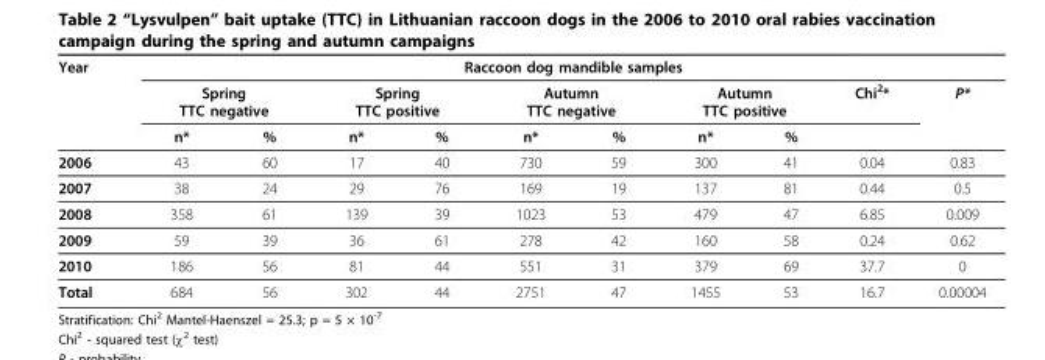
<table><thead><tr><td rowspan="3">Year</td><td colspan="10">Raccoon dog mandible samples</td></tr><tr><td colspan="2">Spring TTC negative</td><td colspan="2">Spring TTC positive</td><td colspan="2">Autumn TTC negative</td><td colspan="2">Autumn TTC positive</td><td rowspan="2">Chi<sup>2</sup>*</td><td rowspan="2">P*</td></tr><tr><td>n*</td><td>%</td><td>n*</td><td>%</td><td>n*</td><td>%</td><td>n*</td><td>%</td></tr></thead><tbody><tr><td>2006</td><td>43</td><td>60</td><td>17</td><td>40</td><td>730</td><td>59</td><td>300</td><td>41</td><td>0.04</td><td>0.83</td></tr><tr><td>2007</td><td>38</td><td>24</td><td>29</td><td>76</td><td>169</td><td>19</td><td>137</td><td>81</td><td>0.44</td><td>0.5</td></tr><tr><td>2008</td><td>358</td><td>61</td><td>139</td><td>39</td><td>1023</td><td>53</td><td>479</td><td>47</td><td>6.85</td><td>0.009</td></tr><tr><td>2009</td><td>59</td><td>39</td><td>36</td><td>61</td><td>278</td><td>42</td><td>160</td><td>58</td><td>0.24</td><td>0.62</td></tr><tr><td>2010</td><td>186</td><td>56</td><td>81</td><td>44</td><td>551</td><td>31</td><td>379</td><td>69</td><td>37.7</td><td>0</td></tr><tr><td>Total</td><td>684</td><td>56</td><td>302</td><td>44</td><td>2751</td><td>47</td><td>1455</td><td>53</td><td>16.7</td><td>0.00004</td></tr></tbody></table>